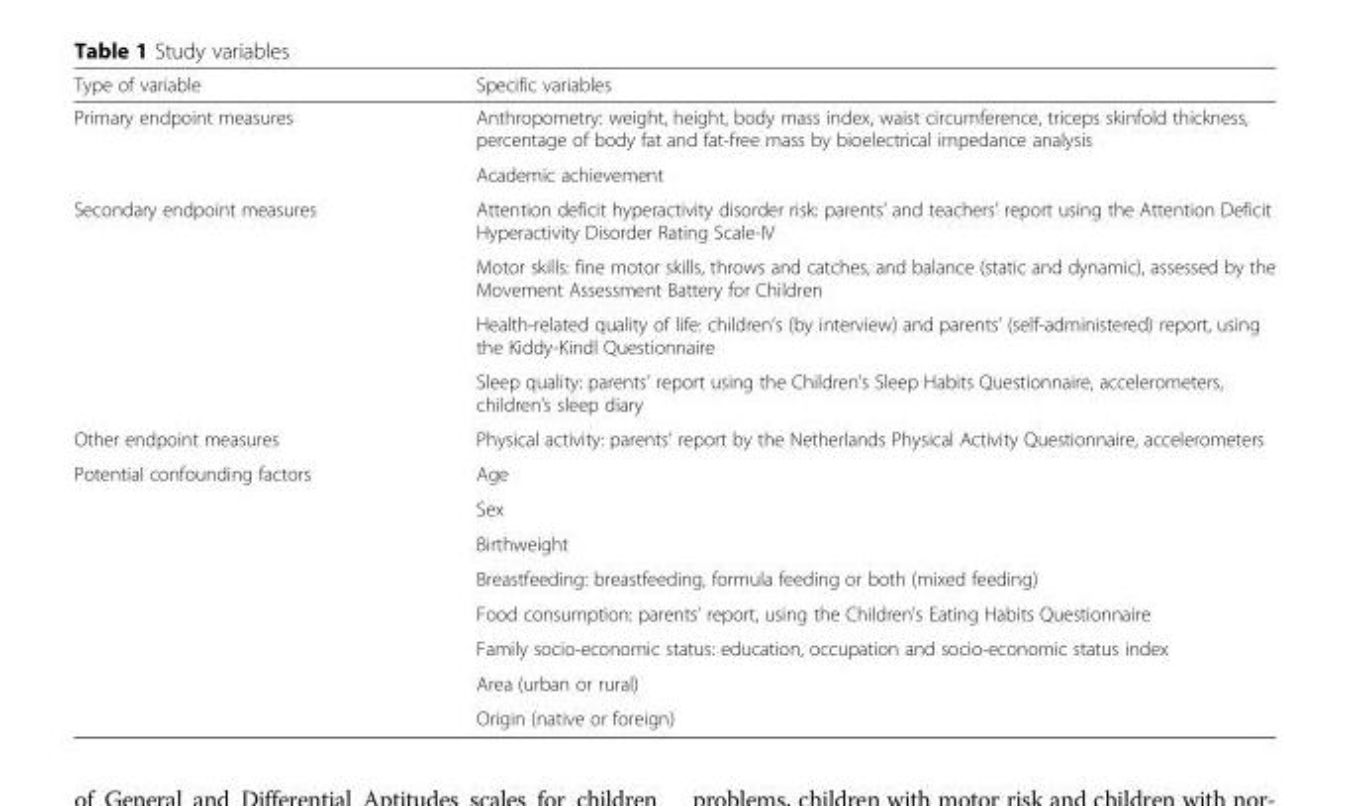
<table><thead><tr><td>Type of variable</td><td>Specific variables</td></tr></thead><tbody><tr><td rowspan="2">Primary endpoint measures</td><td>Anthropometry: weight, height, body mass index, waist circumference, triceps skinfold thickness, percentage of body fat and fat-free mass by bioelectrical impedance analysis</td></tr><tr><td>Academic achievement</td></tr><tr><td rowspan="4">Secondary endpoint measures</td><td>Attention deficit hyperactivity disorder risk: parents’ and teachers’ report using the Attention Deficit Hyperactivity Disorder Rating Scale-IV</td></tr><tr><td>Motor skills: fine motor skills, throws and catches, and balance (static and dynamic), assessed by the Movement Assessment Battery for Children</td></tr><tr><td>Health-related quality of life: children’s (by interview) and parents’ (self-administered) report, using the Kiddy-Kindl Questionnaire</td></tr><tr><td>Sleep quality: parents’ report using the Children’s Sleep Habits Questionnaire, accelerometers, children’s sleep diary</td></tr><tr><td>Other endpoint measures</td><td>Physical activity: parents’ report by the Netherlands Physical Activity Questionnaire, accelerometers</td></tr><tr><td rowspan="8">Potential confounding factors</td><td>Age</td></tr><tr><td>Sex</td></tr><tr><td>Birthweight</td></tr><tr><td>Breastfeeding: breastfeeding, formula feeding or both (mixed feeding)</td></tr><tr><td>Food consumption: parents’ report, using the Children’s Eating Habits Questionnaire</td></tr><tr><td>Family socio-economic status: education, occupation and socio-economic status index</td></tr><tr><td>Area (urban or rural)</td></tr><tr><td>Origin (native or foreign)</td></tr></tbody></table>